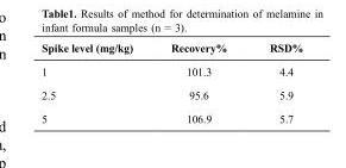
<table><thead><tr><td>Spike level (mg/kg)</td><td>Recovery%</td><td>RSD%</td></tr></thead><tbody><tr><td>1</td><td>101.3</td><td>4.4</td></tr><tr><td>2.5</td><td>95.6</td><td>5.9</td></tr><tr><td>5</td><td>106.9</td><td>5.7</td></tr></tbody></table>